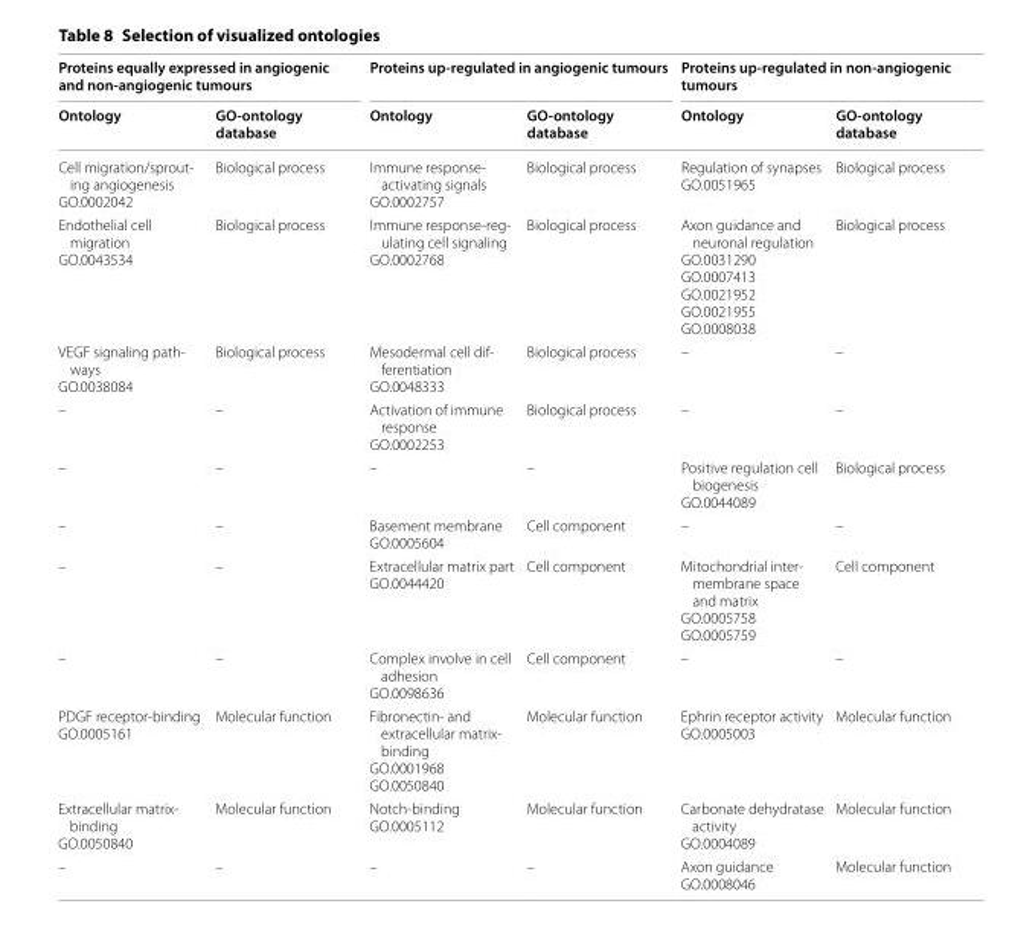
<table><thead><tr><td colspan="2">Proteins equally expressed in angiogenic and non-angiogenic tumours</td><td colspan="2">Proteins up-regulated in angiogenic tumours</td><td colspan="2">Proteins up-regulated in non-angiogenic tumours</td></tr><tr><td>Ontology</td><td>GO-ontology database</td><td>Ontology</td><td>GO-ontology database</td><td>Ontology</td><td>GO-ontology database</td></tr></thead><tbody><tr><td>Cell migration/sprout‑ ing angiogenesis GO.0002042</td><td>Biological process</td><td>Immune response‑ activating signals GO.0002757</td><td>Biological process</td><td>Regulation of synapses GO.0051965</td><td>Biological process</td></tr><tr><td>Endothelial cell migration GO.0043534</td><td>Biological process</td><td>Immune response‑reg‑ ulating cell signaling GO.0002768</td><td>Biological process</td><td>Axon guidance and neuronal regulation GO.0031290 GO.0007413 GO.0021952 GO.0021955 GO.0008038</td><td>Biological process</td></tr><tr><td>VEGF signaling path‑ ways GO.0038084</td><td>Biological process</td><td>Mesodermal cell dif‑ ferentiation GO.0048333</td><td>Biological process</td><td>–</td><td>–</td></tr><tr><td>–</td><td>–</td><td>Activation of immune response GO.0002253</td><td>Biological process</td><td>–</td><td>–</td></tr><tr><td>–</td><td>–</td><td>–</td><td>–</td><td>Positive regulation cell biogenesis GO.0044089</td><td>Biological process</td></tr><tr><td>–</td><td>–</td><td>Basement membrane GO.0005604</td><td>Cell component</td><td>–</td><td>–</td></tr><tr><td>–</td><td>–</td><td>Extracellular matrix part GO.0044420</td><td>Cell component</td><td>Mitochondrial inter‑ membrane space and matrix GO.0005758 GO.0005759</td><td>Cell component</td></tr><tr><td>–</td><td>–</td><td>Complex involve in cell adhesion GO.0098636</td><td>Cell component</td><td>–</td><td>–</td></tr><tr><td>PDGF receptor‑binding GO.0005161</td><td>Molecular function</td><td>Fibronectin‑ and extracellular matrix‑ binding GO.0001968 GO.0050840</td><td>Molecular function</td><td>Ephrin receptor activity GO.0005003</td><td>Molecular function</td></tr><tr><td>Extracellular matrix‑ binding GO.0050840</td><td>Molecular function</td><td>Notch‑binding GO.0005112</td><td>Molecular function</td><td>Carbonate dehydratase activity GO.0004089</td><td>Molecular function</td></tr><tr><td>–</td><td>–</td><td>–</td><td>–</td><td>Axon guidance GO.0008046</td><td>Molecular function</td></tr></tbody></table>